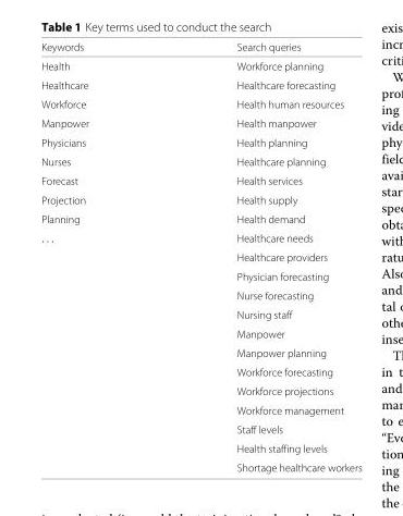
<table><thead><tr><td>Keywords</td><td>Search queries</td></tr></thead><tbody><tr><td>Health</td><td>Workforce planning</td></tr><tr><td>Healthcare</td><td>Healthcare forecasting</td></tr><tr><td>Workforce</td><td>Health human resources</td></tr><tr><td>Manpower</td><td>Health manpower</td></tr><tr><td>Physicians</td><td>Health planning</td></tr><tr><td>Nurses</td><td>Healthcare planning</td></tr><tr><td>Forecast</td><td>Health services</td></tr><tr><td>Projection</td><td>Health supply</td></tr><tr><td>Planning</td><td>Health demand</td></tr><tr><td rowspan="13">. . .</td><td>Healthcare needs</td></tr><tr><td>Healthcare providers</td></tr><tr><td>Physician forecasting</td></tr><tr><td>Nurse forecasting</td></tr><tr><td>Nursing staff</td></tr><tr><td>Manpower</td></tr><tr><td>Manpower planning</td></tr><tr><td>Workforce forecasting</td></tr><tr><td>Workforce projections</td></tr><tr><td>Workforce management</td></tr><tr><td>Staff levels</td></tr><tr><td>Health staffing levels</td></tr><tr><td>Shortage healthcare workers</td></tr></tbody></table>